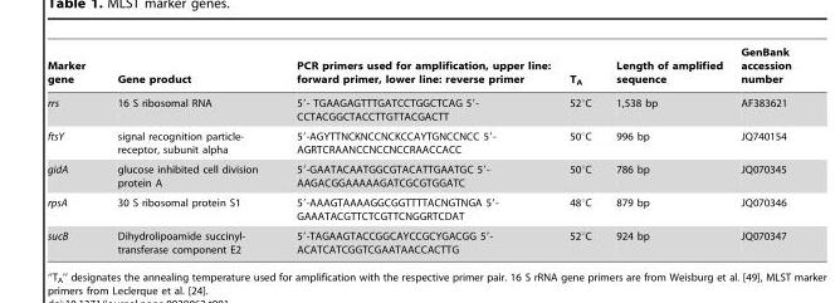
<table><thead><tr><td>Marker gene</td><td>Gene product</td><td>PCR primers used for amplification, upper line: forward primer, lower line: reverse primer</td><td>T<sub>A</sub></td><td>Length of amplified sequence</td><td>GenBank accession number</td></tr></thead><tbody><tr><td>rrs</td><td>16 S ribosomal RNA</td><td>5′- TGAAGAGTTTGATCCTGGCTCAG 5′- CCTACGGCTACCTTGTTACGACTT</td><td>52°C</td><td>1,538 bp</td><td>AF383621</td></tr><tr><td>ftsY</td><td>signal recognition particle- receptor, subunit alpha</td><td>5′-AGYTTNCKNCCNCKCCAYTGNCCNCC 5′- AGRTCRAANCCNCCNCCRAACCACC</td><td>50°C</td><td>996 bp</td><td>JQ740154</td></tr><tr><td>gidA</td><td>glucose inhibited cell division protein A</td><td>5′-GAATACAATGGCGTACATTGAATGC 5′- AAGACGGAAAAAGATCGCGTGGATC</td><td>50°C</td><td>786 bp</td><td>JQ070345</td></tr><tr><td>rpsA</td><td>30 S ribosomal protein S1</td><td>5′-AAAGTAAAAGGCGGTTTTACNGTNGA 5′- GAAATACGTTCTCGTTCNGGRTCDAT</td><td>48°C</td><td>879 bp</td><td>JQ070346</td></tr><tr><td>sucB</td><td>Dihydrolipoamide succinyl- transferase component E2</td><td>5′-TAGAAGTACCGGCAYCCGCYGACGG 5′- ACATCATCGGTCGAATAACCACTTG</td><td>52°C</td><td>924 bp</td><td>JQ070347</td></tr></tbody></table>